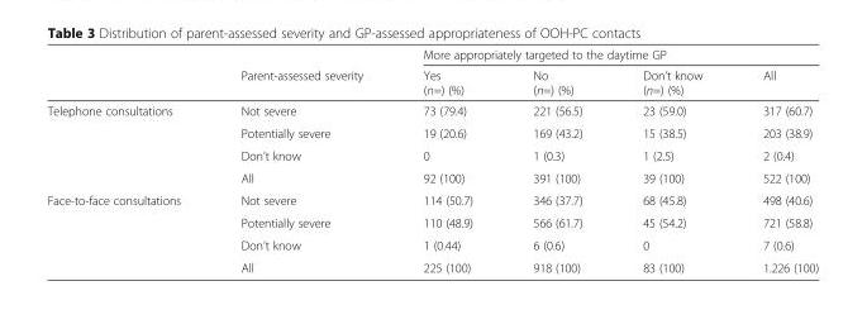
<table><thead><tr><td rowspan="2"></td><td rowspan="2">Parent-assessed severity</td><td colspan="4">More appropriately targeted to the daytime GP</td></tr><tr><td>Yes (n=) (%)</td><td>No (n=) (%)</td><td>Don’t know (n=) (%)</td><td>All</td></tr></thead><tbody><tr><td rowspan="4">Telephone consultations</td><td>Not severe</td><td>73 (79.4)</td><td>221 (56.5)</td><td>23 (59.0)</td><td>317 (60.7)</td></tr><tr><td>Potentially severe</td><td>19 (20.6)</td><td>169 (43.2)</td><td>15 (38.5)</td><td>203 (38.9)</td></tr><tr><td>Don’t know</td><td>0</td><td>1 (0.3)</td><td>1 (2.5)</td><td>2 (0.4)</td></tr><tr><td>All</td><td>92 (100)</td><td>391 (100)</td><td>39 (100)</td><td>522 (100)</td></tr><tr><td rowspan="4">Face-to-face consultations</td><td>Not severe</td><td>114 (50.7)</td><td>346 (37.7)</td><td>68 (45.8)</td><td>498 (40.6)</td></tr><tr><td>Potentially severe</td><td>110 (48.9)</td><td>566 (61.7)</td><td>45 (54.2)</td><td>721 (58.8)</td></tr><tr><td>Don’t know</td><td>1 (0.44)</td><td>6 (0.6)</td><td>0</td><td>7 (0.6)</td></tr><tr><td>All</td><td>225 (100)</td><td>918 (100)</td><td>83 (100)</td><td>1.226 (100)</td></tr></tbody></table>